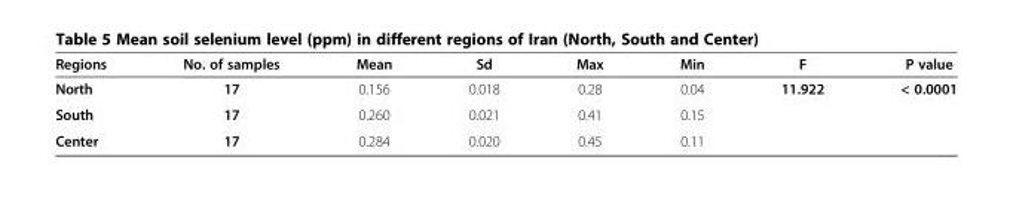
<table><thead><tr><td>Regions</td><td>No. of samples</td><td>Mean</td><td>Sd</td><td>Max</td><td>Min</td><td>F</td><td>P value</td></tr></thead><tbody><tr><td>North</td><td>17</td><td>0.156</td><td>0.018</td><td>0.28</td><td>0.04</td><td>11.922</td><td>&lt; 0.0001</td></tr><tr><td>South</td><td>17</td><td>0.260</td><td>0.021</td><td>0.41</td><td>0.15</td><td></td><td></td></tr><tr><td>Center</td><td>17</td><td>0.284</td><td>0.020</td><td>0.45</td><td>0.11</td><td></td><td></td></tr></tbody></table>